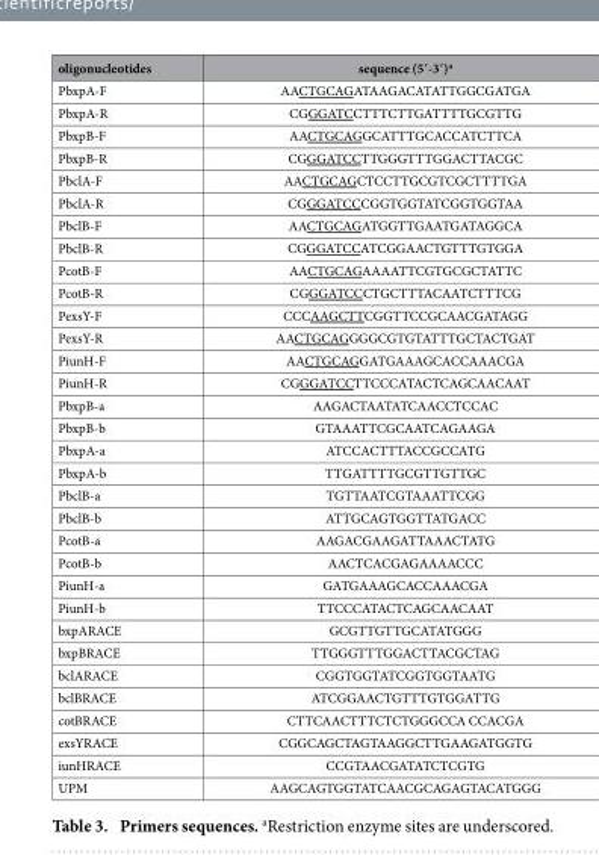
<table><thead><tr><td>oligonucleotides</td><td>sequence (5′-3′)<sup>a</sup></td></tr></thead><tbody><tr><td>PbxpA-F</td><td>AACTGCAGATAAGACATATTGGCGATGA</td></tr><tr><td>PbxpA-R</td><td>CGGGATCCTTTCTTGATTTTGCGTTG</td></tr><tr><td>PbxpB-F</td><td>AACTGCAGGCATTTGCACCATCTTCA</td></tr><tr><td>PbxpB-R</td><td>CGGGATCCTTGGGTTTGGACTTACGC</td></tr><tr><td>PbclA-F</td><td>AACTGCAGCTCCTTGCGTCGCTTTTGA</td></tr><tr><td>PbclA-R</td><td>CGGGATCCCGGTGGTATCGGTGGTAA</td></tr><tr><td>PbclB-F</td><td>AACTGCAGATGGTTGAATGATAGGCA</td></tr><tr><td>PbclB-R</td><td>CGGGATCCATCGGAACTGTTTGTGGA</td></tr><tr><td>PcotB-F</td><td>AACTGCAGAAAATTCGTGCGCTATTC</td></tr><tr><td>PcotB-R</td><td>CGGGATCCCTGCTTTACAATCTTTCG</td></tr><tr><td>PexsY-F</td><td>CCCAAGCTTCGGTTCCGCAACGATAGG</td></tr><tr><td>PexsY-R</td><td>AACTGCAGGGGCGTGTATTTGCTACTGAT</td></tr><tr><td>PiunH-F</td><td>AACTGCAGGATGAAAGCACCAAACGA</td></tr><tr><td>PiunH-R</td><td>CGGGATCCTTCCCATACTCAGCAACAAT</td></tr><tr><td>PbxpB-a</td><td>AAGACTAATATCAACCTCCAC</td></tr><tr><td>PbxpB-b</td><td>GTAAATTCGCAATCAGAAGA</td></tr><tr><td>PbxpA-a</td><td>ATCCACTTTACCGCCATG</td></tr><tr><td>PbxpA-b</td><td>TTGATTTTGCGTTGTTGC</td></tr><tr><td>PbclB-a</td><td>TGTTAATCGTAAATTCGG</td></tr><tr><td>PbclB-b</td><td>ATTGCAGTGGTTATGACC</td></tr><tr><td>PcotB-a</td><td>AAGACGAAGATTAAACTATG</td></tr><tr><td>PcotB-b</td><td>AACTCACGAGAAAACCC</td></tr><tr><td>PiunH-a</td><td>GATGAAAGCACCAAACGA</td></tr><tr><td>PiunH-b</td><td>TTCCCATACTCAGCAACAAT</td></tr><tr><td>bxpARACE</td><td>GCGTTGTTGCATATGGG</td></tr><tr><td>bxpBRACE</td><td>TTGGGTTTGGACTTACGCTAG</td></tr><tr><td>bclARACE</td><td>CGGTGGTATCGGTGGTAATG</td></tr><tr><td>bclBRACE</td><td>ATCGGAACTGTTTGTGGATTG</td></tr><tr><td>cotBRACE</td><td>CTTCAACTTTCTCTGGGCCA CCACGA</td></tr><tr><td>exsYRACE</td><td>CGGCAGCTAGTAAGGCTTGAAGATGGTG</td></tr><tr><td>iunHRACE</td><td>CCGTAACGATATCTCGTG</td></tr><tr><td>UPM</td><td>AAGCAGTGGTATCAACGCAGAGTACATGGG</td></tr></tbody></table>